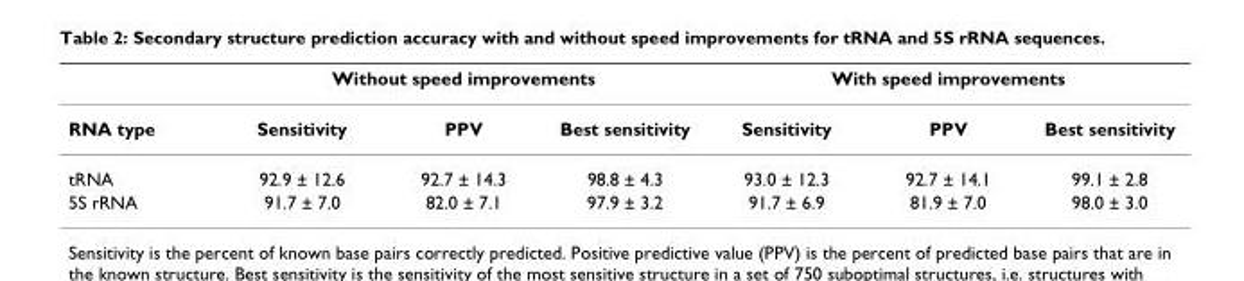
<table><thead><tr><td rowspan="2">RNA type</td><td colspan="3">Without speed improvements</td><td colspan="3">With speed improvements</td></tr><tr><td>Sensitivity</td><td>PPV</td><td>Best sensitivity</td><td>Sensitivity</td><td>PPV</td><td>Best sensitivity</td></tr></thead><tbody><tr><td>tRNA</td><td>92.9 ± 12.6</td><td>92.7 ± 14.3</td><td>98.8 ± 4.3</td><td>93.0 ± 12.3</td><td>92.7 ± 14.1</td><td>99.1 ± 2.8</td></tr><tr><td>5S rRNA</td><td>91.7 ± 7.0</td><td>82.0 ± 7.1</td><td>97.9 ± 3.2</td><td>91.7 ± 6.9</td><td>81.9 ± 7.0</td><td>98.0 ± 3.0</td></tr></tbody></table>